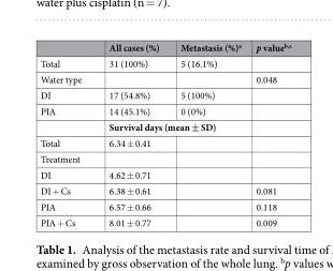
<table><thead><tr><td></td><td>All cases (%)</td><td>Metastasis (%)<sup>a</sup></td><td>p value<sup>b,c</sup></td></tr></thead><tbody><tr><td>Total</td><td>31 (100%)</td><td>5 (16.1%)</td><td></td></tr><tr><td>Water type</td><td></td><td></td><td>0.048</td></tr><tr><td>DI</td><td>17 (54.8%)</td><td>5 (100%)</td><td></td></tr><tr><td rowspan="2">PIA</td><td>14 (45.1%)</td><td>0 (0%)</td><td></td></tr><tr><td colspan="2">Survival days (mean ± SD)</td><td></td></tr><tr><td>Total</td><td>6.34 ± 0.41</td><td></td><td></td></tr><tr><td colspan="4">Treatment</td></tr><tr><td>DI</td><td>4.62 ± 0.71</td><td></td><td></td></tr><tr><td>DI + Cs</td><td>6.38 ± 0.61</td><td></td><td>0.081</td></tr><tr><td>PIA</td><td>6.57 ± 0.66</td><td></td><td>0.118</td></tr><tr><td>PIA + Cs</td><td>8.01 ± 0.77</td><td></td><td>0.009</td></tr></tbody></table>